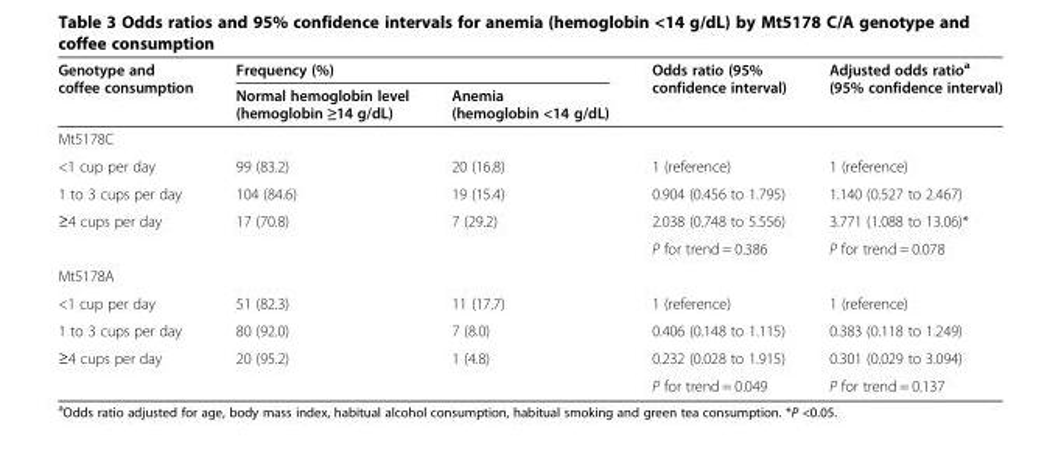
<table><thead><tr><td rowspan="2">Genotype and coffee consumption</td><td colspan="2">Frequency (%)</td><td rowspan="2">Odds ratio (95% confidence interval)</td><td rowspan="2">Adjusted odds ratio<sup>a</sup> (95% confidence interval)</td></tr><tr><td>Normal hemoglobin level (hemoglobin ≥14 g/dL)</td><td>Anemia (hemoglobin &lt;14 g/dL)</td></tr></thead><tbody><tr><td colspan="5">Mt5178C</td></tr><tr><td>&lt;1 cup per day</td><td>99 (83.2)</td><td>20 (16.8)</td><td>1 (reference)</td><td>1 (reference)</td></tr><tr><td>1 to 3 cups per day</td><td>104 (84.6)</td><td>19 (15.4)</td><td>0.904 (0.456 to 1.795)</td><td>1.140 (0.527 to 2.467)</td></tr><tr><td rowspan="2">≥4 cups per day</td><td>17 (70.8)</td><td>7 (29.2)</td><td>2.038 (0.748 to 5.556)</td><td>3.771 (1.088 to 13.06)*</td></tr><tr><td></td><td></td><td>P for trend = 0.386</td><td>P for trend = 0.078</td></tr><tr><td colspan="5">Mt5178A</td></tr><tr><td>&lt;1 cup per day</td><td>51 (82.3)</td><td>11 (17.7)</td><td>1 (reference)</td><td>1 (reference)</td></tr><tr><td>1 to 3 cups per day</td><td>80 (92.0)</td><td>7 (8.0)</td><td>0.406 (0.148 to 1.115)</td><td>0.383 (0.118 to 1.249)</td></tr><tr><td rowspan="2">≥4 cups per day</td><td>20 (95.2)</td><td>1 (4.8)</td><td>0.232 (0.028 to 1.915)</td><td>0.301 (0.029 to 3.094)</td></tr><tr><td></td><td></td><td>P for trend = 0.049</td><td>P for trend = 0.137</td></tr></tbody></table>